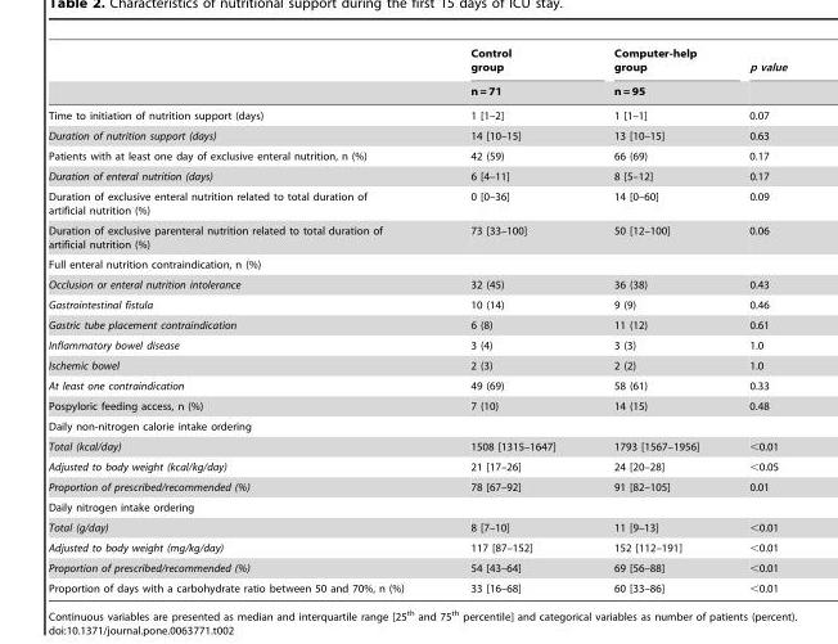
<table><thead><tr><td rowspan="2"></td><td rowspan="2">Control group n = 71</td><td rowspan="2">Computer-help group n = 95</td><td rowspan="2">p value</td></tr><tr></tr></thead><tbody><tr><td>Time to initiation of nutrition support (days)</td><td>1 [1–2]</td><td>1 [1–1]</td><td>0.07</td></tr><tr><td>Duration of nutrition support (days)</td><td>14 [10–15]</td><td>13 [10–15]</td><td>0.63</td></tr><tr><td>Patients with at least one day of exclusive enteral nutrition, n (%)</td><td>42 (59)</td><td>66 (69)</td><td>0.17</td></tr><tr><td>Duration of enteral nutrition (days)</td><td>6 [4–11]</td><td>8 [5–12]</td><td>0.17</td></tr><tr><td>Duration of exclusive enteral nutrition related to total duration of artificial nutrition (%)</td><td>0 [0–36]</td><td>14 [0–60]</td><td>0.09</td></tr><tr><td>Duration of exclusive parenteral nutrition related to total duration of artificial nutrition (%)</td><td>73 [33–100]</td><td>50 [12–100]</td><td>0.06</td></tr><tr><td colspan="4">Full enteral nutrition contraindication, n (%)</td></tr><tr><td>Occlusion or enteral nutrition intolerance</td><td>32 (45)</td><td>36 (38)</td><td>0.43</td></tr><tr><td>Gastrointestinal fistula</td><td>10 (14)</td><td>9 (9)</td><td>0.46</td></tr><tr><td>Gastric tube placement contraindication</td><td>6 (8)</td><td>11 (12)</td><td>0.61</td></tr><tr><td>Inflammatory bowel disease</td><td>3 (4)</td><td>3 (3)</td><td>1.0</td></tr><tr><td>Ischemic bowel</td><td>2 (3)</td><td>2 (2)</td><td>1.0</td></tr><tr><td>At least one contraindication</td><td>49 (69)</td><td>58 (61)</td><td>0.33</td></tr><tr><td>Pospyloric feeding access, n (%)</td><td>7 (10)</td><td>14 (15)</td><td>0.48</td></tr><tr><td colspan="4">Daily non-nitrogen calorie intake ordering</td></tr><tr><td>Total (kcal/day)</td><td>1508 [1315–1647]</td><td>1793 [1567–1956]</td><td>&lt;0.01</td></tr><tr><td>Adjusted to body weight (kcal/kg/day)</td><td>21 [17–26]</td><td>24 [20–28]</td><td>&lt;0.05</td></tr><tr><td>Proportion of prescribed/recommended (%)</td><td>78 [67–92]</td><td>91 [82–105]</td><td>0.01</td></tr><tr><td colspan="4">Daily nitrogen intake ordering</td></tr><tr><td>Total (g/day)</td><td>8 [7–10]</td><td>11 [9–13]</td><td>&lt;0.01</td></tr><tr><td>Adjusted to body weight (mg/kg/day)</td><td>117 [87–152]</td><td>152 [112–191]</td><td>&lt;0.01</td></tr><tr><td>Proportion of prescribed/recommended (%)</td><td>54 [43–64]</td><td>69 [56–88]</td><td>&lt;0.01</td></tr><tr><td>Proportion of days with a carbohydrate ratio between 50 and 70%, n (%)</td><td>33 [16–68]</td><td>60 [33–86]</td><td>&lt;0.01</td></tr></tbody></table>